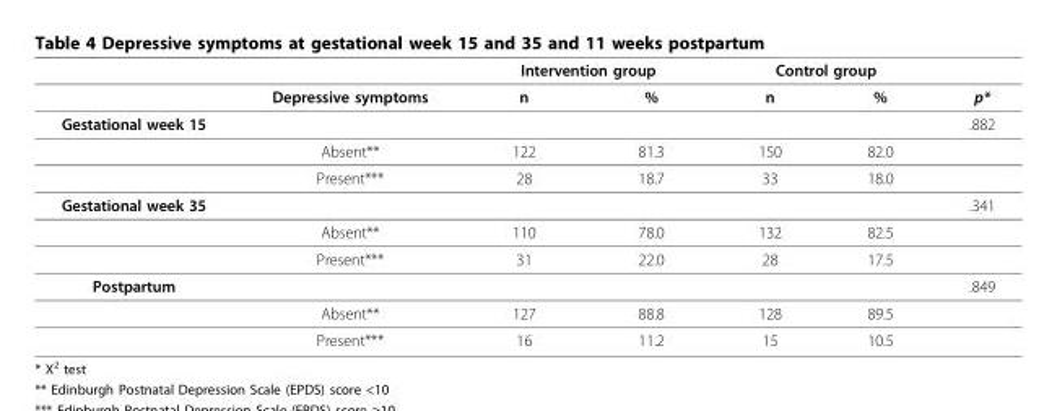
<table><thead><tr><td rowspan="2"></td><td rowspan="2">Depressive symptoms</td><td colspan="2">Intervention group</td><td colspan="2">Control group</td><td rowspan="2">p*</td></tr><tr><td>n</td><td>%</td><td>n</td><td>%</td></tr></thead><tbody><tr><td rowspan="3">Gestational week 15</td><td></td><td></td><td></td><td></td><td></td><td>.882</td></tr><tr><td>Absent**</td><td>122</td><td>81.3</td><td>150</td><td>82.0</td><td></td></tr><tr><td>Present***</td><td>28</td><td>18.7</td><td>33</td><td>18.0</td><td></td></tr><tr><td rowspan="3">Gestational week 35</td><td></td><td></td><td></td><td></td><td></td><td>.341</td></tr><tr><td>Absent**</td><td>110</td><td>78.0</td><td>132</td><td>82.5</td><td></td></tr><tr><td>Present***</td><td>31</td><td>22.0</td><td>28</td><td>17.5</td><td></td></tr><tr><td rowspan="3">Postpartum</td><td></td><td></td><td></td><td></td><td></td><td>.849</td></tr><tr><td>Absent**</td><td>127</td><td>88.8</td><td>128</td><td>89.5</td><td></td></tr><tr><td>Present***</td><td>16</td><td>11.2</td><td>15</td><td>10.5</td><td></td></tr></tbody></table>